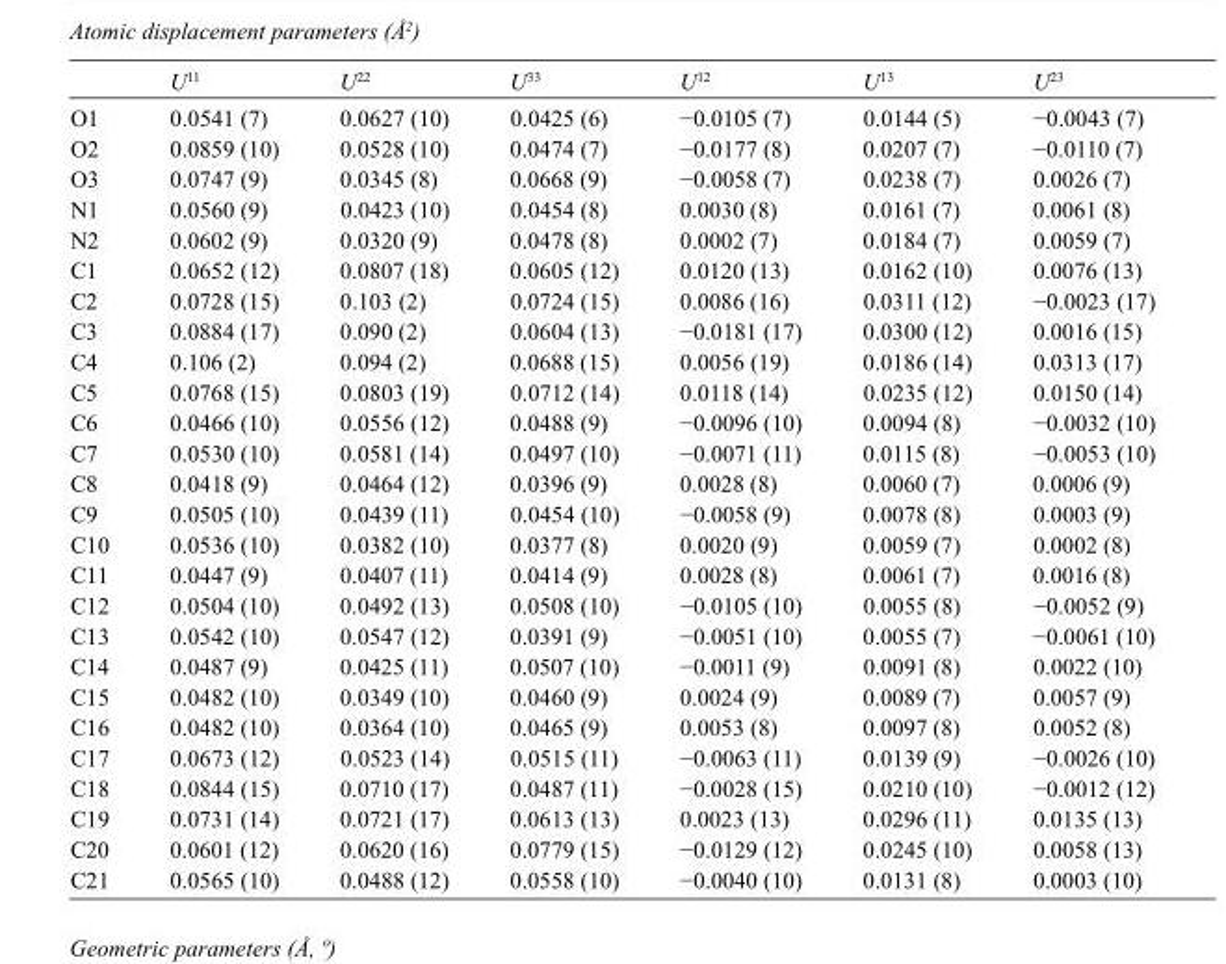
<table><thead><tr><td></td><td>U<sup>11</sup></td><td>U<sup>22</sup></td><td>U<sup>33</sup></td><td>U<sup>12</sup></td><td>U<sup>13</sup></td><td>U<sup>23</sup></td></tr></thead><tbody><tr><td>O1</td><td>0.0541 (7)</td><td>0.0627 (10)</td><td>0.0425 (6)</td><td>−0.0105 (7)</td><td>0.0144 (5)</td><td>−0.0043 (7)</td></tr><tr><td>O2</td><td>0.0859 (10)</td><td>0.0528 (10)</td><td>0.0474 (7)</td><td>−0.0177 (8)</td><td>0.0207 (7)</td><td>−0.0110 (7)</td></tr><tr><td>O3</td><td>0.0747 (9)</td><td>0.0345 (8)</td><td>0.0668 (9)</td><td>−0.0058 (7)</td><td>0.0238 (7)</td><td>0.0026 (7)</td></tr><tr><td>N1</td><td>0.0560 (9)</td><td>0.0423 (10)</td><td>0.0454 (8)</td><td>0.0030 (8)</td><td>0.0161 (7)</td><td>0.0061 (8)</td></tr><tr><td>N2</td><td>0.0602 (9)</td><td>0.0320 (9)</td><td>0.0478 (8)</td><td>0.0002 (7)</td><td>0.0184 (7)</td><td>0.0059 (7)</td></tr><tr><td>C1</td><td>0.0652 (12)</td><td>0.0807 (18)</td><td>0.0605 (12)</td><td>0.0120 (13)</td><td>0.0162 (10)</td><td>0.0076 (13)</td></tr><tr><td>C2</td><td>0.0728 (15)</td><td>0.103 (2)</td><td>0.0724 (15)</td><td>0.0086 (16)</td><td>0.0311 (12)</td><td>−0.0023 (17)</td></tr><tr><td>C3</td><td>0.0884 (17)</td><td>0.090 (2)</td><td>0.0604 (13)</td><td>−0.0181 (17)</td><td>0.0300 (12)</td><td>0.0016 (15)</td></tr><tr><td>C4</td><td>0.106 (2)</td><td>0.094 (2)</td><td>0.0688 (15)</td><td>0.0056 (19)</td><td>0.0186 (14)</td><td>0.0313 (17)</td></tr><tr><td>C5</td><td>0.0768 (15)</td><td>0.0803 (19)</td><td>0.0712 (14)</td><td>0.0118 (14)</td><td>0.0235 (12)</td><td>0.0150 (14)</td></tr><tr><td>C6</td><td>0.0466 (10)</td><td>0.0556 (12)</td><td>0.0488 (9)</td><td>−0.0096 (10)</td><td>0.0094 (8)</td><td>−0.0032 (10)</td></tr><tr><td>C7</td><td>0.0530 (10)</td><td>0.0581 (14)</td><td>0.0497 (10)</td><td>−0.0071 (11)</td><td>0.0115 (8)</td><td>−0.0053 (10)</td></tr><tr><td>C8</td><td>0.0418 (9)</td><td>0.0464 (12)</td><td>0.0396 (9)</td><td>0.0028 (8)</td><td>0.0060 (7)</td><td>0.0006 (9)</td></tr><tr><td>C9</td><td>0.0505 (10)</td><td>0.0439 (11)</td><td>0.0454 (10)</td><td>−0.0058 (9)</td><td>0.0078 (8)</td><td>0.0003 (9)</td></tr><tr><td>C10</td><td>0.0536 (10)</td><td>0.0382 (10)</td><td>0.0377 (8)</td><td>0.0020 (9)</td><td>0.0059 (7)</td><td>0.0002 (8)</td></tr><tr><td>C11</td><td>0.0447 (9)</td><td>0.0407 (11)</td><td>0.0414 (9)</td><td>0.0028 (8)</td><td>0.0061 (7)</td><td>0.0016 (8)</td></tr><tr><td>C12</td><td>0.0504 (10)</td><td>0.0492 (13)</td><td>0.0508 (10)</td><td>−0.0105 (10)</td><td>0.0055 (8)</td><td>−0.0052 (9)</td></tr><tr><td>C13</td><td>0.0542 (10)</td><td>0.0547 (12)</td><td>0.0391 (9)</td><td>−0.0051 (10)</td><td>0.0055 (7)</td><td>−0.0061 (10)</td></tr><tr><td>C14</td><td>0.0487 (9)</td><td>0.0425 (11)</td><td>0.0507 (10)</td><td>−0.0011 (9)</td><td>0.0091 (8)</td><td>0.0022 (10)</td></tr><tr><td>C15</td><td>0.0482 (10)</td><td>0.0349 (10)</td><td>0.0460 (9)</td><td>0.0024 (9)</td><td>0.0089 (7)</td><td>0.0057 (9)</td></tr><tr><td>C16</td><td>0.0482 (10)</td><td>0.0364 (10)</td><td>0.0465 (9)</td><td>0.0053 (8)</td><td>0.0097 (8)</td><td>0.0052 (8)</td></tr><tr><td>C17</td><td>0.0673 (12)</td><td>0.0523 (14)</td><td>0.0515 (11)</td><td>−0.0063 (11)</td><td>0.0139 (9)</td><td>−0.0026 (10)</td></tr><tr><td>C18</td><td>0.0844 (15)</td><td>0.0710 (17)</td><td>0.0487 (11)</td><td>−0.0028 (15)</td><td>0.0210 (10)</td><td>−0.0012 (12)</td></tr><tr><td>C19</td><td>0.0731 (14)</td><td>0.0721 (17)</td><td>0.0613 (13)</td><td>0.0023 (13)</td><td>0.0296 (11)</td><td>0.0135 (13)</td></tr><tr><td>C20</td><td>0.0601 (12)</td><td>0.0620 (16)</td><td>0.0779 (15)</td><td>−0.0129 (12)</td><td>0.0245 (10)</td><td>0.0058 (13)</td></tr><tr><td>C21</td><td>0.0565 (10)</td><td>0.0488 (12)</td><td>0.0558 (10)</td><td>−0.0040 (10)</td><td>0.0131 (8)</td><td>0.0003 (10)</td></tr></tbody></table>